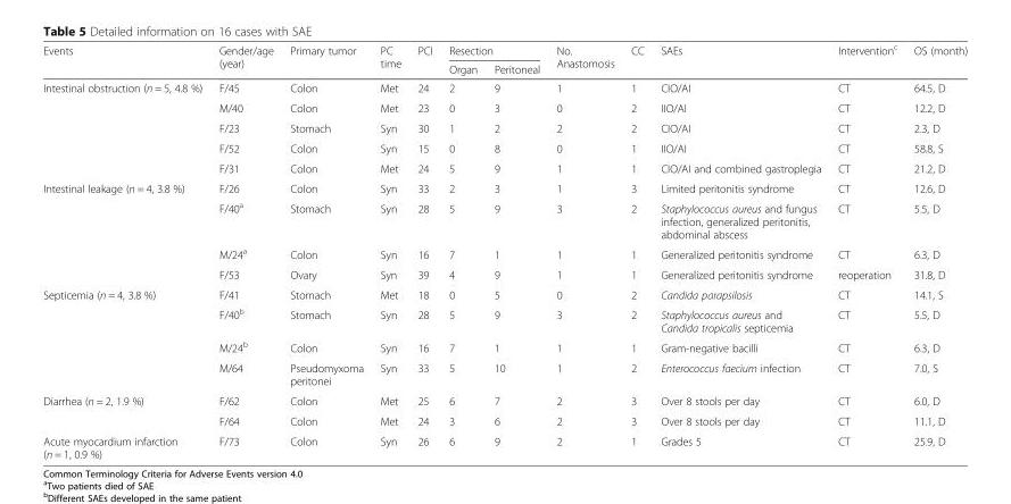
<table><thead><tr><td rowspan="2">Events</td><td rowspan="2">Gender/age (year)</td><td rowspan="2">Primary tumor</td><td rowspan="2">PC time</td><td rowspan="2">PCI</td><td colspan="2">Resection</td><td rowspan="2">No. Anastomosis</td><td rowspan="2">CC</td><td rowspan="2">SAEs</td><td rowspan="2">Intervention<sup>c</sup></td><td rowspan="2">OS (month)</td></tr><tr><td>Organ</td><td>Peritoneal</td></tr></thead><tbody><tr><td rowspan="5">Intestinal obstruction (n = 5, 4.8 %)</td><td>F/45</td><td>Colon</td><td>Met</td><td>24</td><td>2</td><td>9</td><td>1</td><td>1</td><td>CIO/AI</td><td>CT</td><td>64.5, D</td></tr><tr><td>M/40</td><td>Colon</td><td>Met</td><td>23</td><td>0</td><td>3</td><td>0</td><td>2</td><td>IIO/AI</td><td>CT</td><td>12.2, D</td></tr><tr><td>F/23</td><td>Stomach</td><td>Syn</td><td>30</td><td>1</td><td>2</td><td>2</td><td>2</td><td>CIO/AI</td><td>CT</td><td>2.3, D</td></tr><tr><td>F/52</td><td>Colon</td><td>Syn</td><td>15</td><td>0</td><td>8</td><td>0</td><td>1</td><td>IIO/AI</td><td>CT</td><td>58.8, S</td></tr><tr><td>F/31</td><td>Colon</td><td>Met</td><td>24</td><td>5</td><td>9</td><td>1</td><td>1</td><td>CIO/AI and combined gastroplegia</td><td>CT</td><td>21.2, D</td></tr><tr><td rowspan="4">Intestinal leakage (n = 4, 3.8 %)</td><td>F/26</td><td>Colon</td><td>Syn</td><td>33</td><td>2</td><td>3</td><td>1</td><td>3</td><td>Limited peritonitis syndrome</td><td>CT</td><td>12.6, D</td></tr><tr><td>F/40<sup>a</sup></td><td>Stomach</td><td>Syn</td><td>28</td><td>5</td><td>9</td><td>3</td><td>2</td><td>Staphylococcus aureus and fungus infection, generalized peritonitis, abdominal abscess</td><td>CT</td><td>5.5, D</td></tr><tr><td>M/24<sup>a</sup></td><td>Colon</td><td>Syn</td><td>16</td><td>7</td><td>1</td><td>1</td><td>1</td><td>Generalized peritonitis syndrome</td><td>CT</td><td>6.3, D</td></tr><tr><td>F/53</td><td>Ovary</td><td>Syn</td><td>39</td><td>4</td><td>9</td><td>1</td><td>1</td><td>Generalized peritonitis syndrome</td><td>reoperation</td><td>31.8, D</td></tr><tr><td rowspan="4">Septicemia (n = 4, 3.8 %)</td><td>F/41</td><td>Stomach</td><td>Met</td><td>18</td><td>0</td><td>5</td><td>0</td><td>2</td><td>Candida parapsilosis</td><td>CT</td><td>14.1, S</td></tr><tr><td>F/40<sup>b</sup></td><td>Stomach</td><td>Syn</td><td>28</td><td>5</td><td>9</td><td>3</td><td>2</td><td>Staphylococcus aureus and Candida tropicalis septicemia</td><td>CT</td><td>5.5, D</td></tr><tr><td>M/24<sup>b</sup></td><td>Colon</td><td>Syn</td><td>16</td><td>7</td><td>1</td><td>1</td><td>1</td><td>Gram-negative bacilli</td><td>CT</td><td>6.3, D</td></tr><tr><td>M/64</td><td>Pseudomyxoma peritonei</td><td>Syn</td><td>33</td><td>5</td><td>10</td><td>1</td><td>2</td><td>Enterococcus faecium infection</td><td>CT</td><td>7.0, S</td></tr><tr><td rowspan="2">Diarrhea (n = 2, 1.9 %)</td><td>F/62</td><td>Colon</td><td>Met</td><td>25</td><td>6</td><td>7</td><td>2</td><td>3</td><td>Over 8 stools per day</td><td>CT</td><td>6.0, D</td></tr><tr><td>F/64</td><td>Colon</td><td>Met</td><td>24</td><td>3</td><td>6</td><td>2</td><td>3</td><td>Over 8 stools per day</td><td>CT</td><td>11.1, D</td></tr><tr><td>Acute myocardium infarction (n = 1, 0.9 %)</td><td>F/73</td><td>Colon</td><td>Syn</td><td>26</td><td>6</td><td>9</td><td>2</td><td>1</td><td>Grades 5</td><td>CT</td><td>25.9, D</td></tr></tbody></table>